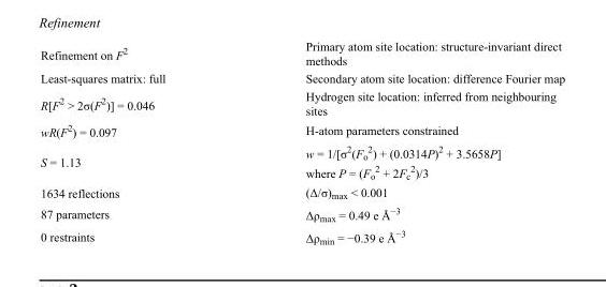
<table><tbody><tr><td>Refinement on F<sup>2</sup></td><td>Primary atom site location: structure-invariant direct methods</td></tr><tr><td>Least-squares matrix: full</td><td>Secondary atom site location: difference Fourier map</td></tr><tr><td>R[F<sup>2</sup> &gt; 2σ(F<sup>2</sup>)] = 0.046</td><td>Hydrogen site location: inferred from neighbouring sites</td></tr><tr><td>wR(F<sup>2</sup>) = 0.097</td><td>H-atom parameters constrained</td></tr><tr><td>S = 1.13</td><td>w = 1/[σ<sup>2</sup>(F<sub>o</sub> <sup>2</sup>) + (0.0314P)<sup>2</sup> + 3.5658P] where P = (F<sub>o</sub> <sup>2</sup> + 2F<sub>c</sub> <sup>2</sup>)/3</td></tr><tr><td>1634 reflections</td><td>(Δ/σ)<sub>max</sub> &lt; 0.001</td></tr><tr><td>87 parameters</td><td>Δρ<sub>max</sub> = 0.49 e Å<sup>−3</sup></td></tr><tr><td>0 restraints</td><td>Δρ<sub>min</sub> = −0.39 e Å<sup>−3</sup></td></tr></tbody></table>